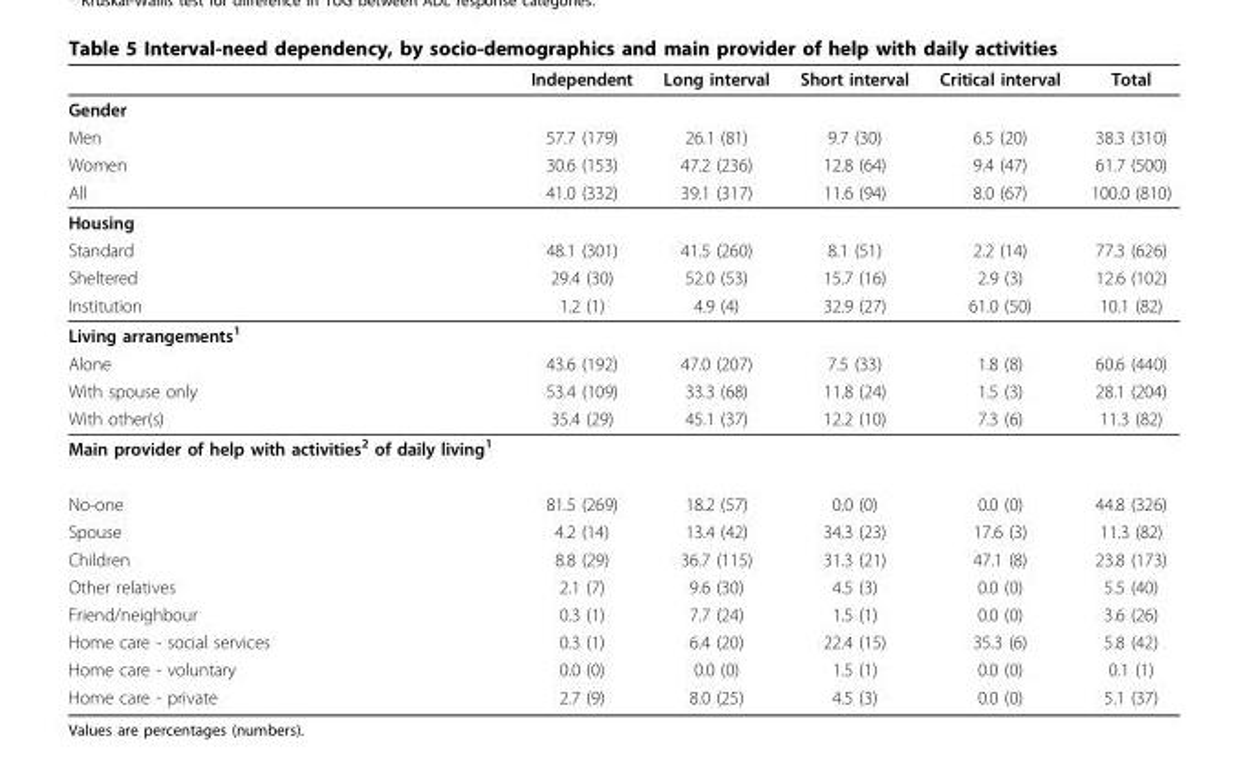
<table><thead><tr><td></td><td>Independent</td><td>Long interval</td><td>Short interval</td><td>Critical interval</td><td>Total</td></tr></thead><tbody><tr><td colspan="6">Gender</td></tr><tr><td>Men</td><td>57.7 (179)</td><td>26.1 (81)</td><td>9.7 (30)</td><td>6.5 (20)</td><td>38.3 (310)</td></tr><tr><td>Women</td><td>30.6 (153)</td><td>47.2 (236)</td><td>12.8 (64)</td><td>9.4 (47)</td><td>61.7 (500)</td></tr><tr><td>All</td><td>41.0 (332)</td><td>39.1 (317)</td><td>11.6 (94)</td><td>8.0 (67)</td><td>100.0 (810)</td></tr><tr><td colspan="6">Housing</td></tr><tr><td>Standard</td><td>48.1 (301)</td><td>41.5 (260)</td><td>8.1 (51)</td><td>2.2 (14)</td><td>77.3 (626)</td></tr><tr><td>Sheltered</td><td>29.4 (30)</td><td>52.0 (53)</td><td>15.7 (16)</td><td>2.9 (3)</td><td>12.6 (102)</td></tr><tr><td>Institution</td><td>1.2 (1)</td><td>4.9 (4)</td><td>32.9 (27)</td><td>61.0 (50)</td><td>10.1 (82)</td></tr><tr><td colspan="6">Living arrangements<sup>1</sup></td></tr><tr><td>Alone</td><td>43.6 (192)</td><td>47.0 (207)</td><td>7.5 (33)</td><td>1.8 (8)</td><td>60.6 (440)</td></tr><tr><td>With spouse only</td><td>53.4 (109)</td><td>33.3 (68)</td><td>11.8 (24)</td><td>1.5 (3)</td><td>28.1 (204)</td></tr><tr><td>With other(s)</td><td>35.4 (29)</td><td>45.1 (37)</td><td>12.2 (10)</td><td>7.3 (6)</td><td>11.3 (82)</td></tr><tr><td colspan="6">Main provider of help with activities<sup>2</sup> of daily living<sup>1</sup></td></tr><tr><td>No-one</td><td>81.5 (269)</td><td>18.2 (57)</td><td>0.0 (0)</td><td>0.0 (0)</td><td>44.8 (326)</td></tr><tr><td>Spouse</td><td>4.2 (14)</td><td>13.4 (42)</td><td>34.3 (23)</td><td>17.6 (3)</td><td>11.3 (82)</td></tr><tr><td>Children</td><td>8.8 (29)</td><td>36.7 (115)</td><td>31.3 (21)</td><td>47.1 (8)</td><td>23.8 (173)</td></tr><tr><td>Other relatives</td><td>2.1 (7)</td><td>9.6 (30)</td><td>4.5 (3)</td><td>0.0 (0)</td><td>5.5 (40)</td></tr><tr><td>Friend/neighbour</td><td>0.3 (1)</td><td>7.7 (24)</td><td>1.5 (1)</td><td>0.0 (0)</td><td>3.6 (26)</td></tr><tr><td>Home care - social services</td><td>0.3 (1)</td><td>6.4 (20)</td><td>22.4 (15)</td><td>35.3 (6)</td><td>5.8 (42)</td></tr><tr><td>Home care - voluntary</td><td>0.0 (0)</td><td>0.0 (0)</td><td>1.5 (1)</td><td>0.0 (0)</td><td>0.1 (1)</td></tr><tr><td>Home care - private</td><td>2.7 (9)</td><td>8.0 (25)</td><td>4.5 (3)</td><td>0.0 (0)</td><td>5.1 (37)</td></tr></tbody></table>